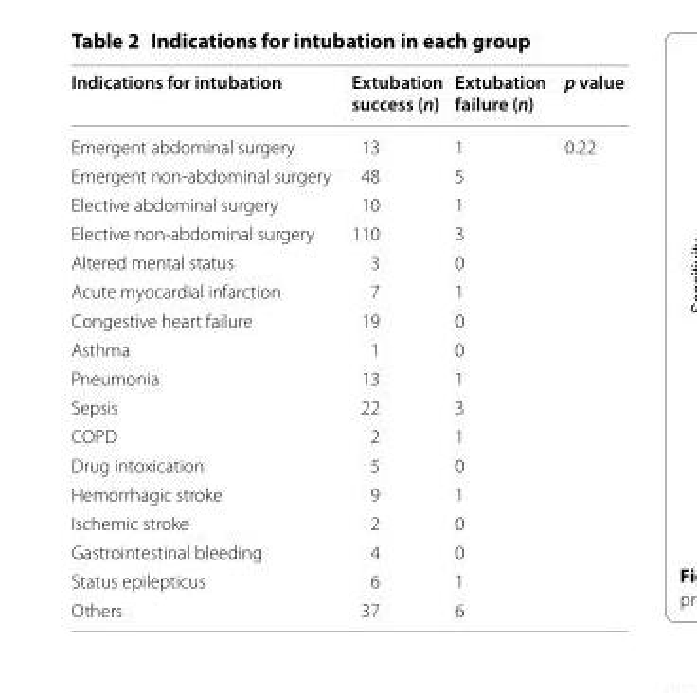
<table><thead><tr><td>Indications for intubation</td><td>Extubation success (n)</td><td>Extubation failure (n)</td><td>p value</td></tr></thead><tbody><tr><td>Emergent abdominal surgery</td><td>13</td><td>1</td><td rowspan="17">0.22</td></tr><tr><td>Emergent non-abdominal surgery</td><td>48</td><td>5</td></tr><tr><td>Elective abdominal surgery</td><td>10</td><td>1</td></tr><tr><td>Elective non-abdominal surgery</td><td>110</td><td>3</td></tr><tr><td>Altered mental status</td><td>3</td><td>0</td></tr><tr><td>Acute myocardial infarction</td><td>7</td><td>1</td></tr><tr><td>Congestive heart failure</td><td>19</td><td>0</td></tr><tr><td>Asthma</td><td>1</td><td>0</td></tr><tr><td>Pneumonia</td><td>13</td><td>1</td></tr><tr><td>Sepsis</td><td>22</td><td>3</td></tr><tr><td>COPD</td><td>2</td><td>1</td></tr><tr><td>Drug intoxication</td><td>5</td><td>0</td></tr><tr><td>Hemorrhagic stroke</td><td>9</td><td>1</td></tr><tr><td>Ischemic stroke</td><td>2</td><td>0</td></tr><tr><td>Gastrointestinal bleeding</td><td>4</td><td>0</td></tr><tr><td>Status epilepticus</td><td>6</td><td>1</td></tr><tr><td>Others</td><td>37</td><td>6</td></tr></tbody></table>